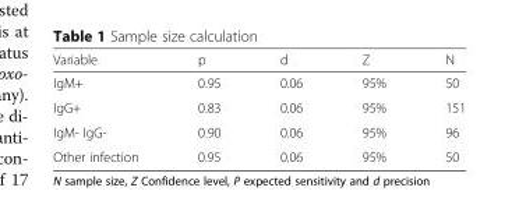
<table><thead><tr><td>Variable</td><td>p</td><td>d</td><td>Z</td><td>N</td></tr></thead><tbody><tr><td>IgM+</td><td>0.95</td><td>0.06</td><td>95%</td><td>50</td></tr><tr><td>IgG+</td><td>0.83</td><td>0.06</td><td>95%</td><td>151</td></tr><tr><td>IgM- IgG-</td><td>0.90</td><td>0.06</td><td>95%</td><td>96</td></tr><tr><td>Other infection</td><td>0.95</td><td>0.06</td><td>95%</td><td>50</td></tr></tbody></table>